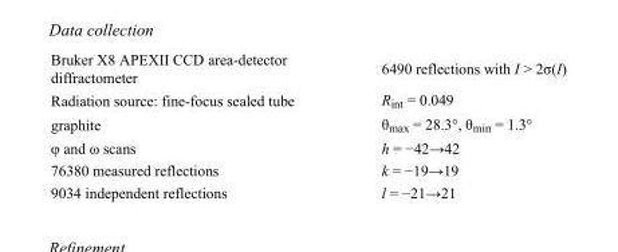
<table><tbody><tr><td>Bruker X8 APEXII CCD area-detector diffractometer</td><td>6490 reflections with I &gt; 2σ(I)</td></tr><tr><td>Radiation source: fine-focus sealed tube</td><td>R<sub>int</sub> = 0.049</td></tr><tr><td>graphite</td><td>θ<sub>max</sub> = 28.3°, θ<sub>min</sub> = 1.3°</td></tr><tr><td>φ and ω scans</td><td>h = −42→42</td></tr><tr><td>76380 measured reflections</td><td>k = −19→19</td></tr><tr><td>9034 independent reflections</td><td>l = −21→21</td></tr></tbody></table>